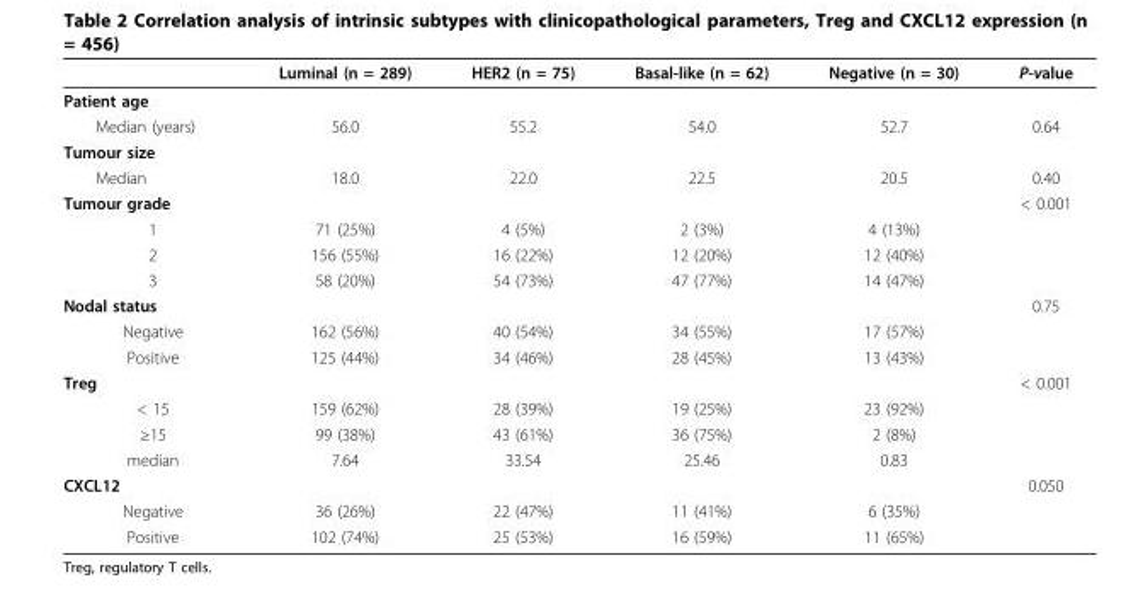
<table><thead><tr><td></td><td>Luminal (n = 289)</td><td>HER2 (n = 75)</td><td>Basal-like (n = 62)</td><td>Negative (n = 30)</td><td>P-value</td></tr></thead><tbody><tr><td colspan="6">Patient age</td></tr><tr><td>Median (years)</td><td>56.0</td><td>55.2</td><td>54.0</td><td>52.7</td><td>0.64</td></tr><tr><td colspan="6">Tumour size</td></tr><tr><td>Median</td><td>18.0</td><td>22.0</td><td>22.5</td><td>20.5</td><td>0.40</td></tr><tr><td>Tumour grade</td><td></td><td></td><td></td><td></td><td>&lt; 0.001</td></tr><tr><td>1</td><td>71 (25%)</td><td>4 (5%)</td><td>2 (3%)</td><td>4 (13%)</td><td></td></tr><tr><td>2</td><td>156 (55%)</td><td>16 (22%)</td><td>12 (20%)</td><td>12 (40%)</td><td></td></tr><tr><td>3</td><td>58 (20%)</td><td>54 (73%)</td><td>47 (77%)</td><td>14 (47%)</td><td></td></tr><tr><td>Nodal status</td><td></td><td></td><td></td><td></td><td>0.75</td></tr><tr><td>Negative</td><td>162 (56%)</td><td>40 (54%)</td><td>34 (55%)</td><td>17 (57%)</td><td></td></tr><tr><td>Positive</td><td>125 (44%)</td><td>34 (46%)</td><td>28 (45%)</td><td>13 (43%)</td><td></td></tr><tr><td>Treg</td><td></td><td></td><td></td><td></td><td>&lt; 0.001</td></tr><tr><td>&lt; 15</td><td>159 (62%)</td><td>28 (39%)</td><td>19 (25%)</td><td>23 (92%)</td><td></td></tr><tr><td>≥15</td><td>99 (38%)</td><td>43 (61%)</td><td>36 (75%)</td><td>2 (8%)</td><td></td></tr><tr><td>median</td><td>7.64</td><td>33.54</td><td>25.46</td><td>0.83</td><td></td></tr><tr><td>CXCL12</td><td></td><td></td><td></td><td></td><td>0.050</td></tr><tr><td>Negative</td><td>36 (26%)</td><td>22 (47%)</td><td>11 (41%)</td><td>6 (35%)</td><td></td></tr><tr><td>Positive</td><td>102 (74%)</td><td>25 (53%)</td><td>16 (59%)</td><td>11 (65%)</td><td></td></tr></tbody></table>